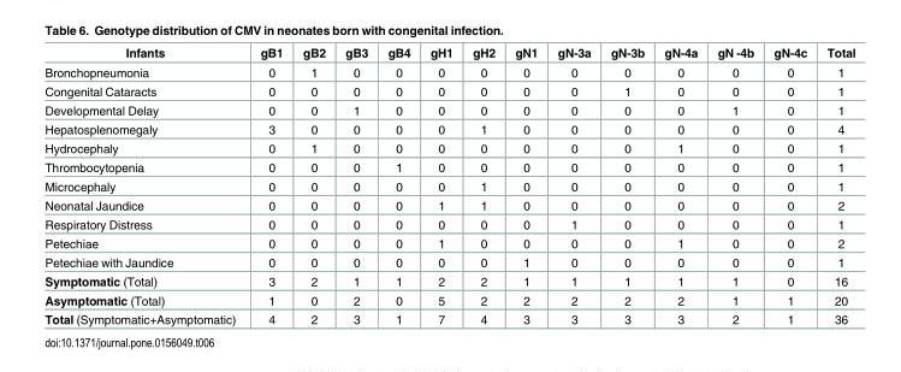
<table><thead><tr><td>Infants</td><td>gB1</td><td>gB2</td><td>gB3</td><td>gB4</td><td>gH1</td><td>gH2</td><td>gN1</td><td>gN-3a</td><td>gN-3b</td><td>gN-4a</td><td>gN -4b</td><td>gN-4c</td><td>Total</td></tr></thead><tbody><tr><td>Bronchopneumonia</td><td>0</td><td>1</td><td>0</td><td>0</td><td>0</td><td>0</td><td>0</td><td>0</td><td>0</td><td>0</td><td>0</td><td>0</td><td>1</td></tr><tr><td>Congenital Cataracts</td><td>0</td><td>0</td><td>0</td><td>0</td><td>0</td><td>0</td><td>0</td><td>0</td><td>1</td><td>0</td><td>0</td><td>0</td><td>1</td></tr><tr><td>Developmental Delay</td><td>0</td><td>0</td><td>1</td><td>0</td><td>0</td><td>0</td><td>0</td><td>0</td><td>0</td><td>0</td><td>1</td><td>0</td><td>1</td></tr><tr><td>Hepatosplenomegaly</td><td>3</td><td>0</td><td>0</td><td>0</td><td>0</td><td>1</td><td>0</td><td>0</td><td>0</td><td>0</td><td>0</td><td>0</td><td>4</td></tr><tr><td>Hydrocephaly</td><td>0</td><td>1</td><td>0</td><td>0</td><td>0</td><td>0</td><td>0</td><td>0</td><td>0</td><td>1</td><td>0</td><td>0</td><td>1</td></tr><tr><td>Thrombocytopenia</td><td>0</td><td>0</td><td>0</td><td>1</td><td>0</td><td>0</td><td>0</td><td>0</td><td>0</td><td>0</td><td>0</td><td>0</td><td>1</td></tr><tr><td>Microcephaly</td><td>0</td><td>0</td><td>0</td><td>0</td><td>0</td><td>1</td><td>0</td><td>0</td><td>0</td><td>0</td><td>0</td><td>0</td><td>1</td></tr><tr><td>Neonatal Jaundice</td><td>0</td><td>0</td><td>0</td><td>0</td><td>1</td><td>1</td><td>0</td><td>0</td><td>0</td><td>0</td><td>0</td><td>0</td><td>2</td></tr><tr><td>Respiratory Distress</td><td>0</td><td>0</td><td>0</td><td>0</td><td>0</td><td>0</td><td>0</td><td>1</td><td>0</td><td>0</td><td>0</td><td>0</td><td>1</td></tr><tr><td>Petechiae</td><td>0</td><td>0</td><td>0</td><td>0</td><td>1</td><td>0</td><td>0</td><td>0</td><td>0</td><td>1</td><td>0</td><td>0</td><td>2</td></tr><tr><td>Petechiae with Jaundice</td><td>0</td><td>0</td><td>0</td><td>0</td><td>0</td><td>0</td><td>1</td><td>0</td><td>0</td><td>0</td><td>0</td><td>0</td><td>1</td></tr><tr><td>Symptomatic (Total)</td><td>3</td><td>2</td><td>1</td><td>1</td><td>2</td><td>2</td><td>1</td><td>1</td><td>1</td><td>1</td><td>1</td><td>0</td><td>16</td></tr><tr><td>Asymptomatic (Total)</td><td>1</td><td>0</td><td>2</td><td>0</td><td>5</td><td>2</td><td>2</td><td>2</td><td>2</td><td>2</td><td>1</td><td>1</td><td>20</td></tr><tr><td>Total (Symptomatic+Asymptomatic)</td><td>4</td><td>2</td><td>3</td><td>1</td><td>7</td><td>4</td><td>3</td><td>3</td><td>3</td><td>3</td><td>2</td><td>1</td><td>36</td></tr></tbody></table>